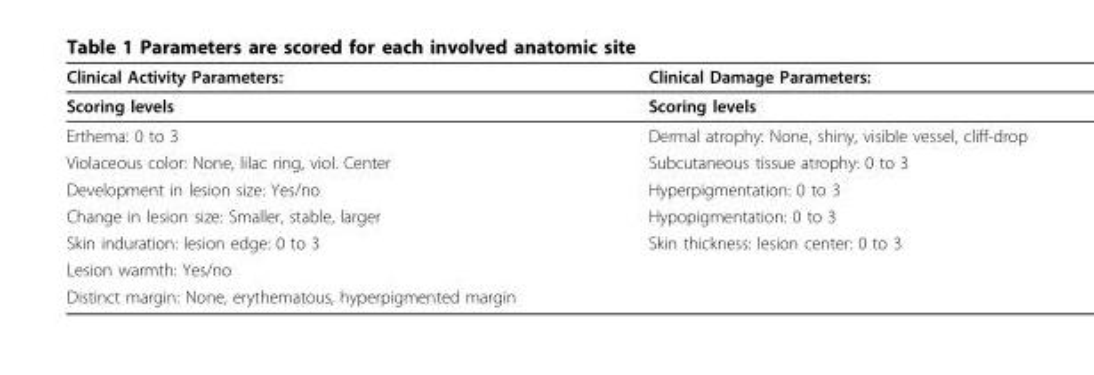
<table><thead><tr><td>Clinical Activity Parameters:</td><td>Clinical Damage Parameters:</td></tr></thead><tbody><tr><td>Scoring levels</td><td>Scoring levels</td></tr><tr><td>Erthema: 0 to 3</td><td>Dermal atrophy: None, shiny, visible vessel, cliff-drop</td></tr><tr><td>Violaceous color: None, lilac ring, viol. Center</td><td>Subcutaneous tissue atrophy: 0 to 3</td></tr><tr><td>Development in lesion size: Yes/no</td><td>Hyperpigmentation: 0 to 3</td></tr><tr><td>Change in lesion size: Smaller, stable, larger</td><td>Hypopigmentation: 0 to 3</td></tr><tr><td>Skin induration: lesion edge: 0 to 3</td><td>Skin thickness: lesion center: 0 to 3</td></tr><tr><td colspan="2">Lesion warmth: Yes/no</td></tr><tr><td>Distinct margin: None, erythematous, hyperpigmented margin</td><td></td></tr></tbody></table>